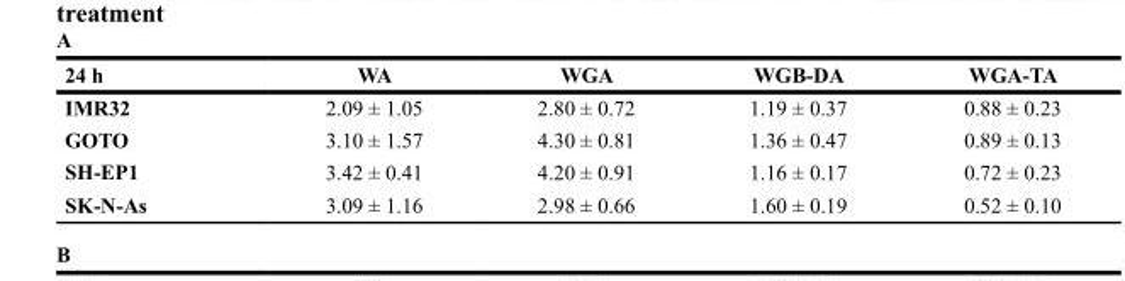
<table><thead><tr><td>24 h</td><td>WA</td><td>WGA</td><td>WGB-DA</td><td>WGA-TA</td></tr></thead><tbody><tr><td>IMR32</td><td>2.09 ± 1.05</td><td>2.80 ± 0.72</td><td>1.19 ± 0.37</td><td>0.88 ± 0.23</td></tr><tr><td>GOTO</td><td>3.10 ± 1.57</td><td>4.30 ± 0.81</td><td>1.36 ± 0.47</td><td>0.89 ± 0.13</td></tr><tr><td>SH-EP1</td><td>3.42 ± 0.41</td><td>4.20 ± 0.91</td><td>1.16 ± 0.17</td><td>0.72 ± 0.23</td></tr><tr><td>SK-N-As</td><td>3.09 ± 1.16</td><td>2.98 ± 0.66</td><td>1.60 ± 0.19</td><td>0.52 ± 0.10</td></tr></tbody></table>